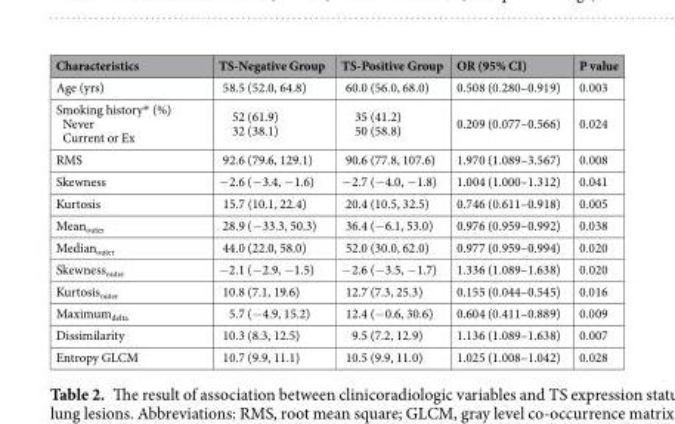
<table><thead><tr><td>Characteristics</td><td>TS-Negative Group</td><td>TS-Positive Group</td><td>OR (95% CI)</td><td>P value</td></tr></thead><tbody><tr><td>Age (yrs)</td><td>58.5 (52.0, 64.8)</td><td>60.0 (56.0, 68.0)</td><td>0.508 (0.280–0.919)</td><td>0.003</td></tr><tr><td>Smoking history* (%) Never Current or Ex</td><td>52 (61.9) 32 (38.1)</td><td>35 (41.2) 50 (58.8)</td><td>0.209 (0.077–0.566)</td><td>0.024</td></tr><tr><td>RMS</td><td>92.6 (79.6, 129.1)</td><td>90.6 (77.8, 107.6)</td><td>1.970 (1.089–3.567)</td><td>0.008</td></tr><tr><td>Skewness</td><td>−2.6 (−3.4, −1.6)</td><td>−2.7 (−4.0, −1.8)</td><td>1.004 (1.000–1.312)</td><td>0.041</td></tr><tr><td>Kurtosis</td><td>15.7 (10.1, 22.4)</td><td>20.4 (10.5, 32.5)</td><td>0.746 (0.611–0.918)</td><td>0.005</td></tr><tr><td>Mean<sub>outer</sub></td><td>28.9 (−33.3, 50.3)</td><td>36.4 (−6.1, 53.0)</td><td>0.976 (0.959–0.992)</td><td>0.038</td></tr><tr><td>Median<sub>outer</sub></td><td>44.0 (22.0, 58.0)</td><td>52.0 (30.0, 62.0)</td><td>0.977 (0.959–0.994)</td><td>0.020</td></tr><tr><td>Skewness<sub>outer</sub></td><td>−2.1 (−2.9, −1.5)</td><td>−2.6 (−3.5, −1.7)</td><td>1.336 (1.089–1.638)</td><td>0.020</td></tr><tr><td>Kurtosis<sub>outer</sub></td><td>10.8 (7.1, 19.6)</td><td>12.7 (7.3, 25.3)</td><td>0.155 (0.044–0.545)</td><td>0.016</td></tr><tr><td>Maximum<sub>delta</sub></td><td>5.7 (−4.9, 15.2)</td><td>12.4 (−0.6, 30.6)</td><td>0.604 (0.411–0.889)</td><td>0.009</td></tr><tr><td>Dissimilarity</td><td>10.3 (8.3, 12.5)</td><td>9.5 (7.2, 12.9)</td><td>1.136 (1.089–1.638)</td><td>0.007</td></tr><tr><td>Entropy GLCM</td><td>10.7 (9.9, 11.1)</td><td>10.5 (9.9, 11.0)</td><td>1.025 (1.008–1.042)</td><td>0.028</td></tr></tbody></table>